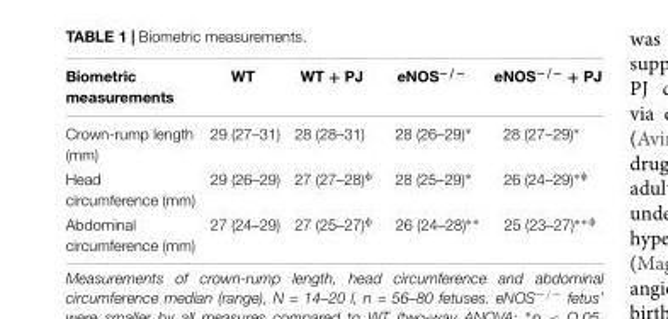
<table><thead><tr><td>Biometric measurements</td><td>WT</td><td>WT + PJ</td><td>eNOS<sup>−/−</sup></td><td>eNOS<sup>−/−</sup> + PJ</td></tr></thead><tbody><tr><td>Crown-rump length (mm)</td><td>29 (27–31)</td><td>28 (28–31)</td><td>28 (26–29)∗</td><td>28 (27–29)∗</td></tr><tr><td>Head circumference (mm)</td><td>29 (26–29)</td><td>27 (27–28)<sup>φ</sup></td><td>28 (25–29)∗</td><td>26 (24–29)<sup>∗φ</sup></td></tr><tr><td>Abdominal circumference (mm)</td><td>27 (24–29)</td><td>27 (25–27)<sup>φ</sup></td><td>26 (24–28)∗∗</td><td>25 (23–27)<sup>∗∗φ</sup></td></tr></tbody></table>